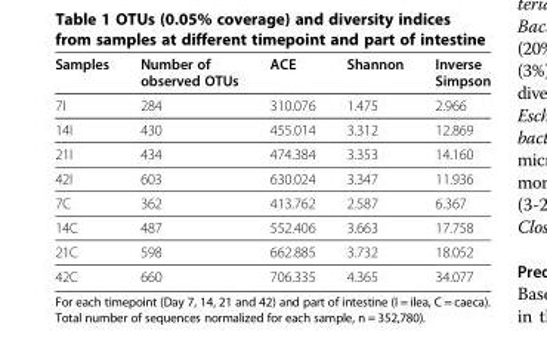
<table><thead><tr><td>Samples</td><td>Number of observed OTUs</td><td>ACE</td><td>Shannon</td><td>Inverse Simpson</td></tr></thead><tbody><tr><td>7I</td><td>284</td><td>310.076</td><td>1.475</td><td>2.966</td></tr><tr><td>14I</td><td>430</td><td>455.014</td><td>3.312</td><td>12.869</td></tr><tr><td>21I</td><td>434</td><td>474.384</td><td>3.353</td><td>14.160</td></tr><tr><td>42I</td><td>603</td><td>630.024</td><td>3.347</td><td>11.936</td></tr><tr><td>7C</td><td>362</td><td>413.762</td><td>2.587</td><td>6.367</td></tr><tr><td>14C</td><td>487</td><td>552.406</td><td>3.663</td><td>17.758</td></tr><tr><td>21C</td><td>598</td><td>662.885</td><td>3.732</td><td>18.052</td></tr><tr><td>42C</td><td>660</td><td>706.335</td><td>4.365</td><td>34.077</td></tr></tbody></table>